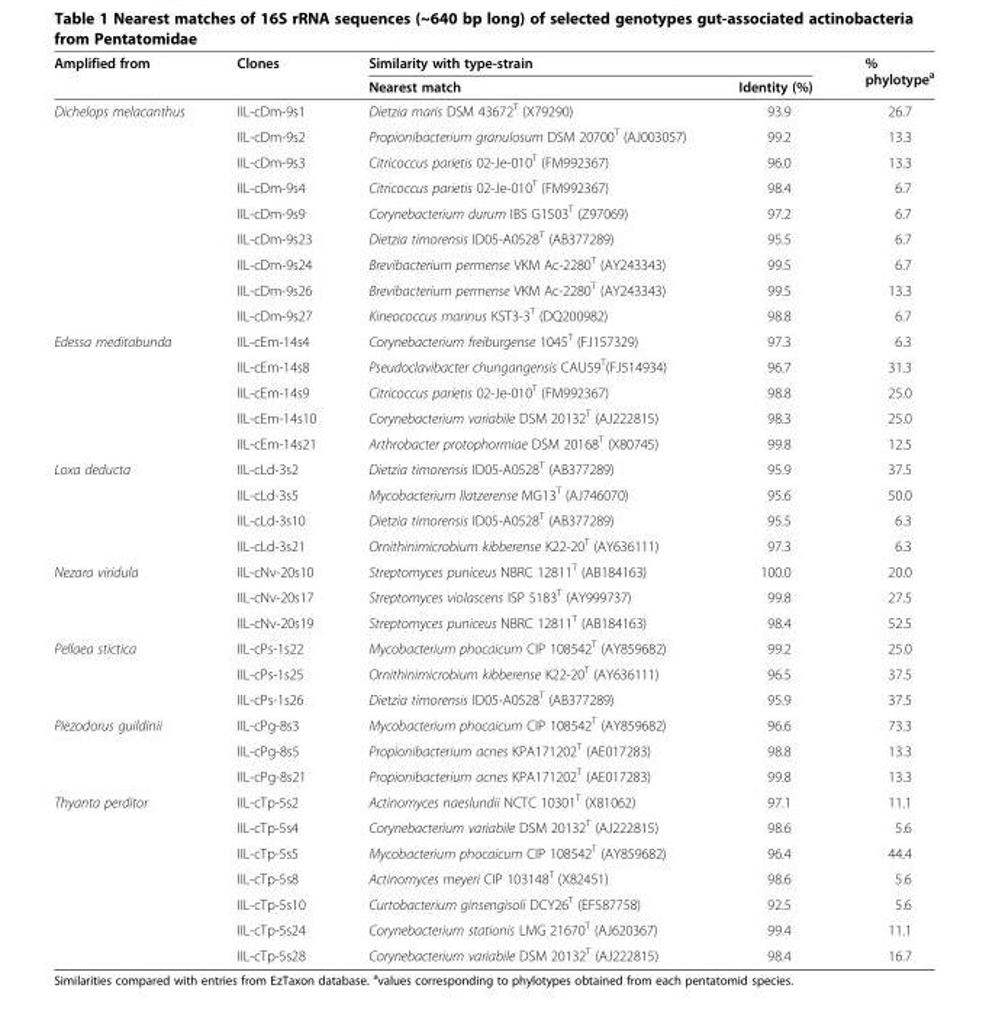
<table><thead><tr><td rowspan="2">Amplified from</td><td rowspan="2">Clones</td><td colspan="2">Similarity with type-strain</td><td rowspan="2">% phylotype<sup>a</sup></td></tr><tr><td>Nearest match</td><td>Identity (%)</td></tr></thead><tbody><tr><td rowspan="9">Dichelops melacanthus</td><td>IIL-cDm-9s1</td><td>Dietzia maris DSM 43672<sup>T</sup> (X79290)</td><td>93.9</td><td>26.7</td></tr><tr><td>IIL-cDm-9s2</td><td>Propionibacterium granulosum DSM 20700<sup>T</sup> (AJ003057)</td><td>99.2</td><td>13.3</td></tr><tr><td>IIL-cDm-9s3</td><td>Citricoccus parietis 02-Je-010<sup>T</sup> (FM992367)</td><td>96.0</td><td>13.3</td></tr><tr><td>IIL-cDm-9s4</td><td>Citricoccus parietis 02-Je-010<sup>T</sup> (FM992367)</td><td>98.4</td><td>6.7</td></tr><tr><td>IIL-cDm-9s9</td><td>Corynebacterium durum IBS G1503<sup>T</sup> (Z97069)</td><td>97.2</td><td>6.7</td></tr><tr><td>IIL-cDm-9s23</td><td>Dietzia timorensis ID05-A0528<sup>T</sup> (AB377289)</td><td>95.5</td><td>6.7</td></tr><tr><td>IIL-cDm-9s24</td><td>Brevibacterium permense VKM Ac-2280<sup>T</sup> (AY243343)</td><td>99.5</td><td>6.7</td></tr><tr><td>IIL-cDm-9s26</td><td>Brevibacterium permense VKM Ac-2280<sup>T</sup> (AY243343)</td><td>99.5</td><td>13.3</td></tr><tr><td>IIL-cDm-9s27</td><td>Kineococcus marinus KST3-3<sup>T</sup> (DQ200982)</td><td>98.8</td><td>6.7</td></tr><tr><td rowspan="5">Edessa meditabunda</td><td>IIL-cEm-14s4</td><td>Corynebacterium freiburgense 1045<sup>T</sup> (FJ157329)</td><td>97.3</td><td>6.3</td></tr><tr><td>IIL-cEm-14s8</td><td>Pseudoclavibacter chungangensis CAU59<sup>T</sup>(FJ514934)</td><td>96.7</td><td>31.3</td></tr><tr><td>IIL-cEm-14s9</td><td>Citricoccus parietis 02-Je-010<sup>T</sup> (FM992367)</td><td>98.8</td><td>25.0</td></tr><tr><td>IIL-cEm-14s10</td><td>Corynebacterium variabile DSM 20132<sup>T</sup> (AJ222815)</td><td>98.3</td><td>25.0</td></tr><tr><td>IIL-cEm-14s21</td><td>Arthrobacter protophormiae DSM 20168<sup>T</sup> (X80745)</td><td>99.8</td><td>12.5</td></tr><tr><td rowspan="4">Loxa deducta</td><td>IIL-cLd-3s2</td><td>Dietzia timorensis ID05-A0528<sup>T</sup> (AB377289)</td><td>95.9</td><td>37.5</td></tr><tr><td>IIL-cLd-3s5</td><td>Mycobacterium llatzerense MG13<sup>T</sup> (AJ746070)</td><td>95.6</td><td>50.0</td></tr><tr><td>IIL-cLd-3s10</td><td>Dietzia timorensis ID05-A0528<sup>T</sup> (AB377289)</td><td>95.5</td><td>6.3</td></tr><tr><td>IIL-cLd-3s21</td><td>Ornithinimicrobium kibberense K22-20<sup>T</sup> (AY636111)</td><td>97.3</td><td>6.3</td></tr><tr><td rowspan="3">Nezara viridula</td><td>IIL-cNv-20s10</td><td>Streptomyces puniceus NBRC 12811<sup>T</sup> (AB184163)</td><td>100.0</td><td>20.0</td></tr><tr><td>IIL-cNv-20s17</td><td>Streptomyces violascens ISP 5183<sup>T</sup> (AY999737)</td><td>99.8</td><td>27.5</td></tr><tr><td>IIL-cNv-20s19</td><td>Streptomyces puniceus NBRC 12811<sup>T</sup> (AB184163)</td><td>98.4</td><td>52.5</td></tr><tr><td rowspan="3">Pellaea stictica</td><td>IIL-cPs-1s22</td><td>Mycobacterium phocaicum CIP 108542<sup>T</sup> (AY859682)</td><td>99.2</td><td>25.0</td></tr><tr><td>IIL-cPs-1s25</td><td>Ornithinimicrobium kibberense K22-20<sup>T</sup> (AY636111)</td><td>96.5</td><td>37.5</td></tr><tr><td>IIL-cPs-1s26</td><td>Dietzia timorensis ID05-A0528<sup>T</sup> (AB377289)</td><td>95.9</td><td>37.5</td></tr><tr><td rowspan="3">Piezodorus guildinii</td><td>IIL-cPg-8s3</td><td>Mycobacterium phocaicum CIP 108542<sup>T</sup> (AY859682)</td><td>96.6</td><td>73.3</td></tr><tr><td>IIL-cPg-8s5</td><td>Propionibacterium acnes KPA171202<sup>T</sup> (AE017283)</td><td>98.8</td><td>13.3</td></tr><tr><td>IIL-cPg-8s21</td><td>Propionibacterium acnes KPA171202<sup>T</sup> (AE017283)</td><td>99.8</td><td>13.3</td></tr><tr><td rowspan="7">Thyanta perditor</td><td>IIL-cTp-5s2</td><td>Actinomyces naeslundii NCTC 10301<sup>T</sup> (X81062)</td><td>97.1</td><td>11.1</td></tr><tr><td>IIL-cTp-5s4</td><td>Corynebacterium variabile DSM 20132<sup>T</sup> (AJ222815)</td><td>98.6</td><td>5.6</td></tr><tr><td>IIL-cTp-5s5</td><td>Mycobacterium phocaicum CIP 108542<sup>T</sup> (AY859682)</td><td>96.4</td><td>44.4</td></tr><tr><td>IIL-cTp-5s8</td><td>Actinomyces meyeri CIP 103148<sup>T</sup> (X82451)</td><td>98.6</td><td>5.6</td></tr><tr><td>IIL-cTp-5s10</td><td>Curtobacterium ginsengisoli DCY26<sup>T</sup> (EF587758)</td><td>92.5</td><td>5.6</td></tr><tr><td>IIL-cTp-5s24</td><td>Corynebacterium stationis LMG 21670<sup>T</sup> (AJ620367)</td><td>99.4</td><td>11.1</td></tr><tr><td>IIL-cTp-5s28</td><td>Corynebacterium variabile DSM 20132<sup>T</sup> (AJ222815)</td><td>98.4</td><td>16.7</td></tr></tbody></table>